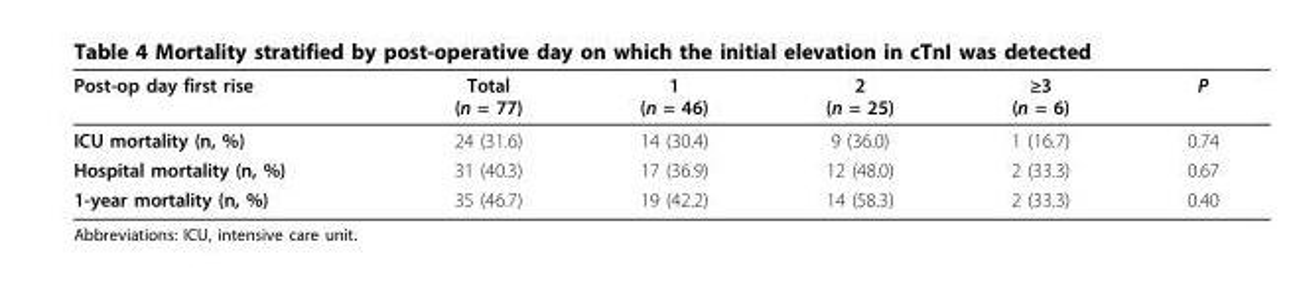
<table><thead><tr><td>Post-op day first rise</td><td>Total (n = 77)</td><td>1 (n = 46)</td><td>2 (n = 25)</td><td>≥3 (n = 6)</td><td>P</td></tr></thead><tbody><tr><td>ICU mortality (n, %)</td><td>24 (31.6)</td><td>14 (30.4)</td><td>9 (36.0)</td><td>1 (16.7)</td><td>0.74</td></tr><tr><td>Hospital mortality (n, %)</td><td>31 (40.3)</td><td>17 (36.9)</td><td>12 (48.0)</td><td>2 (33.3)</td><td>0.67</td></tr><tr><td>1-year mortality (n, %)</td><td>35 (46.7)</td><td>19 (42.2)</td><td>14 (58.3)</td><td>2 (33.3)</td><td>0.40</td></tr></tbody></table>